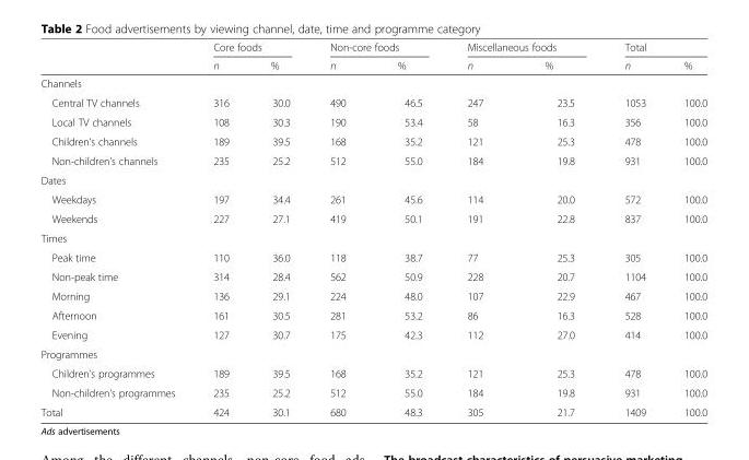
<table><thead><tr><td rowspan="2"></td><td colspan="2">Core foods</td><td colspan="2">Non-core foods</td><td colspan="2">Miscellaneous foods</td><td colspan="2">Total</td></tr><tr><td>n</td><td>%</td><td>n</td><td>%</td><td>n</td><td>%</td><td>n</td><td>%</td></tr></thead><tbody><tr><td colspan="9">Channels</td></tr><tr><td>Central TV channels</td><td>316</td><td>30.0</td><td>490</td><td>46.5</td><td>247</td><td>23.5</td><td>1053</td><td>100.0</td></tr><tr><td>Local TV channels</td><td>108</td><td>30.3</td><td>190</td><td>53.4</td><td>58</td><td>16.3</td><td>356</td><td>100.0</td></tr><tr><td>Children’s channels</td><td>189</td><td>39.5</td><td>168</td><td>35.2</td><td>121</td><td>25.3</td><td>478</td><td>100.0</td></tr><tr><td>Non-children’s channels</td><td>235</td><td>25.2</td><td>512</td><td>55.0</td><td>184</td><td>19.8</td><td>931</td><td>100.0</td></tr><tr><td colspan="9">Dates</td></tr><tr><td>Weekdays</td><td>197</td><td>34.4</td><td>261</td><td>45.6</td><td>114</td><td>20.0</td><td>572</td><td>100.0</td></tr><tr><td>Weekends</td><td>227</td><td>27.1</td><td>419</td><td>50.1</td><td>191</td><td>22.8</td><td>837</td><td>100.0</td></tr><tr><td colspan="9">Times</td></tr><tr><td>Peak time</td><td>110</td><td>36.0</td><td>118</td><td>38.7</td><td>77</td><td>25.3</td><td>305</td><td>100.0</td></tr><tr><td>Non-peak time</td><td>314</td><td>28.4</td><td>562</td><td>50.9</td><td>228</td><td>20.7</td><td>1104</td><td>100.0</td></tr><tr><td>Morning</td><td>136</td><td>29.1</td><td>224</td><td>48.0</td><td>107</td><td>22.9</td><td>467</td><td>100.0</td></tr><tr><td>Afternoon</td><td>161</td><td>30.5</td><td>281</td><td>53.2</td><td>86</td><td>16.3</td><td>528</td><td>100.0</td></tr><tr><td>Evening</td><td>127</td><td>30.7</td><td>175</td><td>42.3</td><td>112</td><td>27.0</td><td>414</td><td>100.0</td></tr><tr><td colspan="9">Programmes</td></tr><tr><td>Children’s programmes</td><td>189</td><td>39.5</td><td>168</td><td>35.2</td><td>121</td><td>25.3</td><td>478</td><td>100.0</td></tr><tr><td>Non-children’s programmes</td><td>235</td><td>25.2</td><td>512</td><td>55.0</td><td>184</td><td>19.8</td><td>931</td><td>100.0</td></tr><tr><td>Total</td><td>424</td><td>30.1</td><td>680</td><td>48.3</td><td>305</td><td>21.7</td><td>1409</td><td>100.0</td></tr></tbody></table>